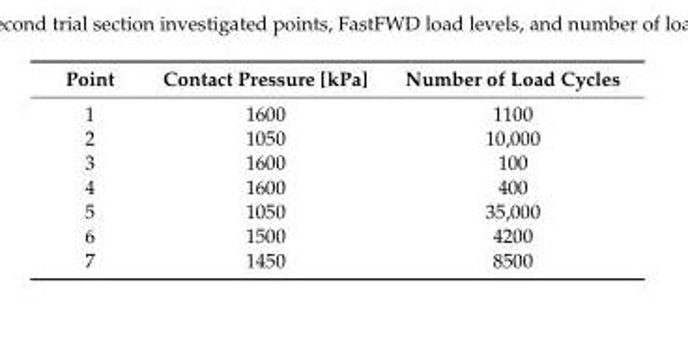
<table><thead><tr><td>Point</td><td>Contact Pressure [kPa]</td><td>Number of Load Cycles</td></tr></thead><tbody><tr><td>1</td><td>1600</td><td>1100</td></tr><tr><td>2</td><td>1050</td><td>10,000</td></tr><tr><td>3</td><td>1600</td><td>100</td></tr><tr><td>4</td><td>1600</td><td>400</td></tr><tr><td>5</td><td>1050</td><td>35,000</td></tr><tr><td>6</td><td>1500</td><td>4200</td></tr><tr><td>7</td><td>1450</td><td>8500</td></tr></tbody></table>